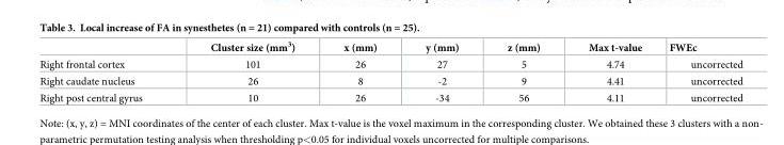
<table><thead><tr><td></td><td>Cluster size (mm<sup>3</sup>)</td><td>x (mm)</td><td>y (mm)</td><td>z (mm)</td><td>Max t-value</td><td>FWEc</td></tr></thead><tbody><tr><td>Right frontal cortex</td><td>101</td><td>26</td><td>27</td><td>5</td><td>4.74</td><td>uncorrected</td></tr><tr><td>Right caudate nucleus</td><td>26</td><td>8</td><td>-2</td><td>9</td><td>4.41</td><td>uncorrected</td></tr><tr><td>Right post central gyrus</td><td>10</td><td>26</td><td>-34</td><td>56</td><td>4.11</td><td>uncorrected</td></tr></tbody></table>